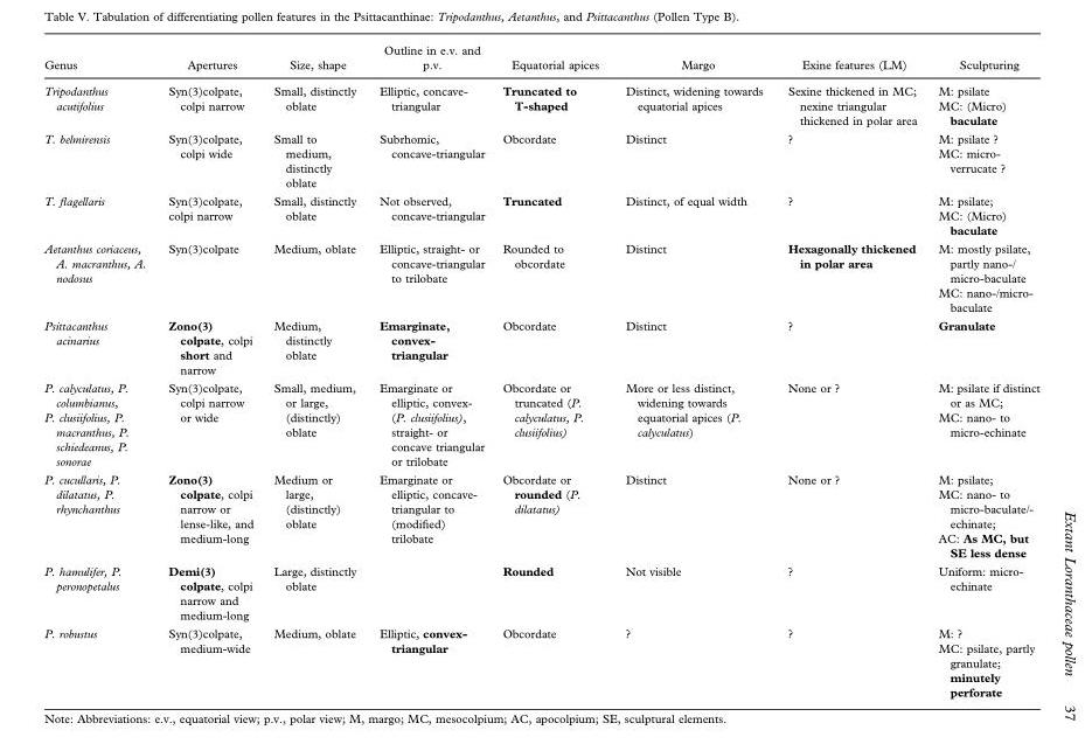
<table><thead><tr><td>Genus</td><td>Apertures</td><td>Size, shape</td><td>Outline in e.v. and p.v.</td><td>Equatorial apices</td><td>Margo</td><td>Exine features (LM)</td><td>Sculpturing</td></tr></thead><tbody><tr><td>Tripodanthus acutifolius</td><td>Syn(3)colpate, colpi narrow</td><td>Small, distinctly oblate</td><td>Elliptic, concave- triangular</td><td>Truncated to T-shaped</td><td>Distinct, widening towards equatorial apices</td><td>Sexine thickened in MC; nexine triangular thickened in polar area</td><td>M: psilate MC: (Micro) baculate</td></tr><tr><td>T. belmirensis</td><td>Syn(3)colpate, colpi wide</td><td>Small to medium, distinctly oblate</td><td>Subrhomic, concave-triangular</td><td>Obcordate</td><td>Distinct</td><td>?</td><td>M: psilate ? MC: micro- verrucate ?</td></tr><tr><td>T. flagellaris</td><td>Syn(3)colpate, colpi narrow</td><td>Small, distinctly oblate</td><td>Not observed, concave-triangular</td><td>Truncated</td><td>Distinct, of equal width</td><td>?</td><td>M: psilate; MC: (Micro) baculate</td></tr><tr><td>Aetanthus coriaceus, A. macranthus, A. nodosus</td><td>Syn(3)colpate</td><td>Medium, oblate</td><td>Elliptic, straight- or concave-triangular to trilobate</td><td>Rounded to obcordate</td><td>Distinct</td><td>Hexagonally thickened in polar area</td><td>M: mostly psilate, partly nano-/ micro-baculate MC: nano-/micro- baculate</td></tr><tr><td>Psittacanthus acinarius</td><td>Zono(3) colpate, colpi short and narrow</td><td>Medium, distinctly oblate</td><td>Emarginate, convex- triangular</td><td>Obcordate</td><td>Distinct</td><td>?</td><td>Granulate</td></tr><tr><td>P. calyculatus, P. columbianus, P. clusiifolius, P. macranthus, P. schiedeanus, P. sonorae</td><td>Syn(3)colpate, colpi narrow or wide</td><td>Small, medium, or large, (distinctly) oblate</td><td>Emarginate or elliptic, convex- (P. clusiifolius), straight- or concave triangular or trilobate</td><td>Obcordate or truncated (P. calyculatus, P. clusiifolius)</td><td>More or less distinct, widening towards equatorial apices (P. calyculatus)</td><td>None or ?</td><td>M: psilate if distinct or as MC; MC: nano- to micro-echinate</td></tr><tr><td>P. cucullaris, P. dilatatus, P. rhynchanthus</td><td>Zono(3) colpate, colpi narrow or lense-like, and medium-long</td><td>Medium or large, (distinctly) oblate</td><td>Emarginate or elliptic, concave- triangular to (modified) trilobate</td><td>Obcordate or rounded (P. dilatatus)</td><td>Distinct</td><td>None or ?</td><td>M: psilate; MC: nano- to micro-baculate/- echinate; AC: As MC, but SE less dense</td></tr><tr><td>P. hamulifer, P. peronopetalus</td><td>Demi(3) colpate, colpi narrow and medium-long</td><td>Large, distinctly oblate</td><td></td><td>Rounded</td><td>Not visible</td><td>?</td><td>Uniform: micro- echinate</td></tr><tr><td>P. robustus</td><td>Syn(3)colpate, medium-wide</td><td>Medium, oblate</td><td>Elliptic, convex- triangular</td><td>Obcordate</td><td>?</td><td>?</td><td>M: ? MC: psilate, partly granulate; minutely perforate</td></tr></tbody></table>